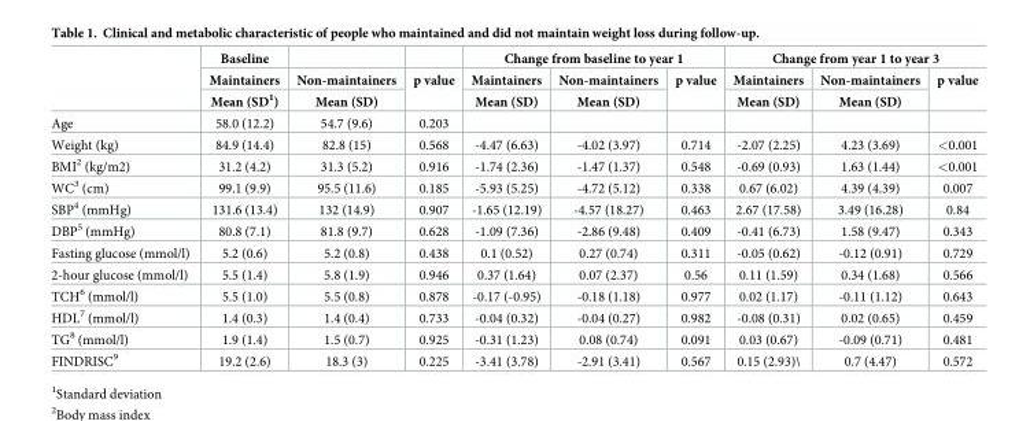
<table><thead><tr><td rowspan="3"></td><td rowspan="3">Baseline Maintainers Mean (SD<sup>1</sup>)</td><td rowspan="3">Non-maintainers Mean (SD)</td><td rowspan="3">p value</td><td colspan="3">Change from baseline to year 1</td><td colspan="3">Change from year 1 to year 3</td></tr><tr><td rowspan="2">Maintainers Mean (SD)</td><td rowspan="2">Non-maintainers Mean (SD)</td><td rowspan="2">p value</td><td rowspan="2">Maintainers Mean (SD)</td><td rowspan="2">Non-maintainers Mean (SD)</td><td rowspan="2">p value</td></tr><tr></tr></thead><tbody><tr><td>Age</td><td>58.0 (12.2)</td><td>54.7 (9.6)</td><td>0.203</td><td></td><td></td><td></td><td></td><td></td><td></td></tr><tr><td>Weight (kg)</td><td>84.9 (14.4)</td><td>82.8 (15)</td><td>0.568</td><td>-4.47 (6.63)</td><td>-4.02 (3.97)</td><td>0.714</td><td>-2.07 (2.25)</td><td>4.23 (3.69)</td><td>&lt;0.001</td></tr><tr><td>BMI<sup>2</sup> (kg/m2)</td><td>31.2 (4.2)</td><td>31.3 (5.2)</td><td>0.916</td><td>-1.74 (2.36)</td><td>-1.47 (1.37)</td><td>0.548</td><td>-0.69 (0.93)</td><td>1.63 (1.44)</td><td>&lt;0.001</td></tr><tr><td>WC<sup>3</sup> (cm)</td><td>99.1 (9.9)</td><td>95.5 (11.6)</td><td>0.185</td><td>-5.93 (5.25)</td><td>-4.72 (5.12)</td><td>0.338</td><td>0.67 (6.02)</td><td>4.39 (4.39)</td><td>0.007</td></tr><tr><td>SBP<sup>4</sup> (mmHg)</td><td>131.6 (13.4)</td><td>132 (14.9)</td><td>0.907</td><td>-1.65 (12.19)</td><td>-4.57 (18.27)</td><td>0.463</td><td>2.67 (17.58)</td><td>3.49 (16.28)</td><td>0.84</td></tr><tr><td>DBP<sup>5</sup> (mmHg)</td><td>80.8 (7.1)</td><td>81.8 (9.7)</td><td>0.628</td><td>-1.09 (7.36)</td><td>-2.86 (9.48)</td><td>0.409</td><td>-0.41 (6.73)</td><td>1.58 (9.47)</td><td>0.343</td></tr><tr><td>Fasting glucose (mmol/l)</td><td>5.2 (0.6)</td><td>5.2 (0.8)</td><td>0.438</td><td>0.1 (0.52)</td><td>0.27 (0.74)</td><td>0.311</td><td>-0.05 (0.62)</td><td>-0.12 (0.91)</td><td>0.729</td></tr><tr><td>2-hour glucose (mmol/l)</td><td>5.5 (1.4)</td><td>5.8 (1.9)</td><td>0.946</td><td>0.37 (1.64)</td><td>0.07 (2.37)</td><td>0.56</td><td>0.11 (1.59)</td><td>0.34 (1.68)</td><td>0.566</td></tr><tr><td>TCH<sup>6</sup> (mmol/l)</td><td>5.5 (1.0)</td><td>5.5 (0.8)</td><td>0.878</td><td>-0.17 (-0.95)</td><td>-0.18 (1.18)</td><td>0.977</td><td>0.02 (1.17)</td><td>-0.11 (1.12)</td><td>0.643</td></tr><tr><td>HDL<sup>7</sup> (mmol/l)</td><td>1.4 (0.3)</td><td>1.4 (0.4)</td><td>0.733</td><td>-0.04 (0.32)</td><td>-0.04 (0.27)</td><td>0.982</td><td>-0.08 (0.31)</td><td>0.02 (0.65)</td><td>0.459</td></tr><tr><td>TG<sup>8</sup> (mmol/l)</td><td>1.9 (1.4)</td><td>1.5 (0.7)</td><td>0.925</td><td>-0.31 (1.23)</td><td>0.08 (0.74)</td><td>0.091</td><td>0.03 (0.67)</td><td>-0.09 (0.71)</td><td>0.481</td></tr><tr><td>FINDRISC<sup>9</sup></td><td>19.2 (2.6)</td><td>18.3 (3)</td><td>0.225</td><td>-3.41 (3.78)</td><td>-2.91 (3.41)</td><td>0.567</td><td>0.15 (2.93)\</td><td>0.7 (4.47)</td><td>0.572</td></tr></tbody></table>